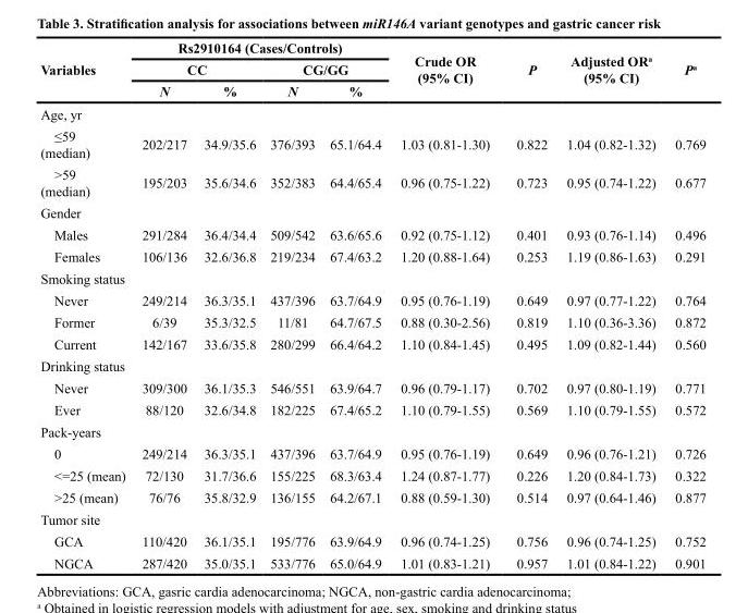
<table><thead><tr><td rowspan="3">Variables</td><td colspan="4">Rs2910164 (Cases/Controls)</td><td rowspan="3">Crude OR (95% CI)</td><td rowspan="3">P</td><td rowspan="3">Adjusted OR<sup>a</sup> (95% CI)</td><td rowspan="3">P<sup>a</sup></td></tr><tr><td colspan="2">CC</td><td colspan="2">CG/GG</td></tr><tr><td>N</td><td>%</td><td>N</td><td>%</td></tr></thead><tbody><tr><td colspan="9">Age, yr</td></tr><tr><td>≤59 (median)</td><td>202/217</td><td>34.9/35.6</td><td>376/393</td><td>65.1/64.4</td><td>1.03 (0.81-1.30)</td><td>0.822</td><td>1.04 (0.82-1.32)</td><td>0.769</td></tr><tr><td>&gt;59 (median)</td><td>195/203</td><td>35.6/34.6</td><td>352/383</td><td>64.4/65.4</td><td>0.96 (0.75-1.22)</td><td>0.723</td><td>0.95 (0.74-1.22)</td><td>0.677</td></tr><tr><td colspan="9">Gender</td></tr><tr><td>Males</td><td>291/284</td><td>36.4/34.4</td><td>509/542</td><td>63.6/65.6</td><td>0.92 (0.75-1.12)</td><td>0.401</td><td>0.93 (0.76-1.14)</td><td>0.496</td></tr><tr><td>Females</td><td>106/136</td><td>32.6/36.8</td><td>219/234</td><td>67.4/63.2</td><td>1.20 (0.88-1.64)</td><td>0.253</td><td>1.19 (0.86-1.63)</td><td>0.291</td></tr><tr><td colspan="9">Smoking status</td></tr><tr><td>Never</td><td>249/214</td><td>36.3/35.1</td><td>437/396</td><td>63.7/64.9</td><td>0.95 (0.76-1.19)</td><td>0.649</td><td>0.97 (0.77-1.22)</td><td>0.764</td></tr><tr><td>Former</td><td>6/39</td><td>35.3/32.5</td><td>11/81</td><td>64.7/67.5</td><td>0.88 (0.30-2.56)</td><td>0.819</td><td>1.10 (0.36-3.36)</td><td>0.872</td></tr><tr><td>Current</td><td>142/167</td><td>33.6/35.8</td><td>280/299</td><td>66.4/64.2</td><td>1.10 (0.84-1.45)</td><td>0.495</td><td>1.09 (0.82-1.44)</td><td>0.560</td></tr><tr><td colspan="9">Drinking status</td></tr><tr><td>Never</td><td>309/300</td><td>36.1/35.3</td><td>546/551</td><td>63.9/64.7</td><td>0.96 (0.79-1.17)</td><td>0.702</td><td>0.97 (0.80-1.19)</td><td>0.771</td></tr><tr><td>Ever</td><td>88/120</td><td>32.6/34.8</td><td>182/225</td><td>67.4/65.2</td><td>1.10 (0.79-1.55)</td><td>0.569</td><td>1.10 (0.79-1.55)</td><td>0.572</td></tr><tr><td colspan="9">Pack-years</td></tr><tr><td>0</td><td>249/214</td><td>36.3/35.1</td><td>437/396</td><td>63.7/64.9</td><td>0.95 (0.76-1.19)</td><td>0.649</td><td>0.96 (0.76-1.21)</td><td>0.726</td></tr><tr><td>&lt;=25 (mean)</td><td>72/130</td><td>31.7/36.6</td><td>155/225</td><td>68.3/63.4</td><td>1.24 (0.87-1.77)</td><td>0.226</td><td>1.20 (0.84-1.73)</td><td>0.322</td></tr><tr><td>&gt;25 (mean)</td><td>76/76</td><td>35.8/32.9</td><td>136/155</td><td>64.2/67.1</td><td>0.88 (0.59-1.30)</td><td>0.514</td><td>0.97 (0.64-1.46)</td><td>0.877</td></tr><tr><td colspan="9">Tumor site</td></tr><tr><td>GCA</td><td>110/420</td><td>36.1/35.1</td><td>195/776</td><td>63.9/64.9</td><td>0.96 (0.74-1.25)</td><td>0.756</td><td>0.96 (0.74-1.25)</td><td>0.752</td></tr><tr><td>NGCA</td><td>287/420</td><td>35.0/35.1</td><td>533/776</td><td>65.0/64.9</td><td>1.01 (0.83-1.21)</td><td>0.957</td><td>1.01 (0.84-1.22)</td><td>0.901</td></tr></tbody></table>